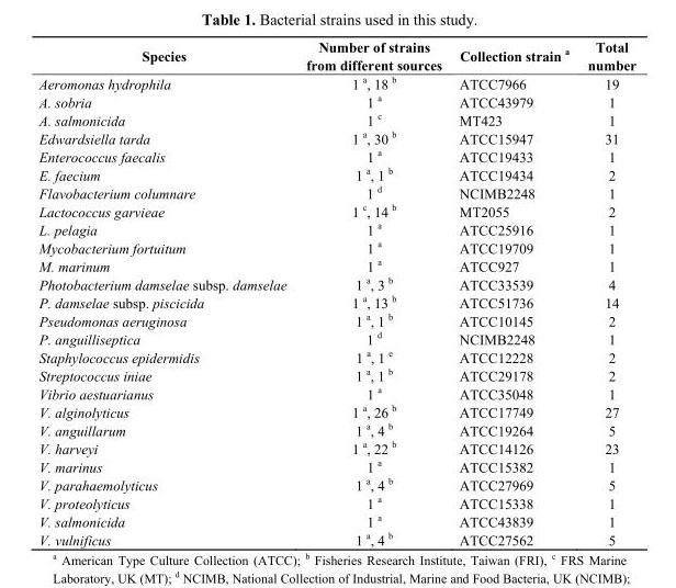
<table><thead><tr><td>Species</td><td>Number of strains from different sources</td><td>Collection strain <sup>a</sup></td><td>Total number</td></tr></thead><tbody><tr><td>Aeromonas hydrophila</td><td>1 <sup>a</sup>, 18 <sup>b</sup></td><td>ATCC7966</td><td>19</td></tr><tr><td>A. sobria</td><td>1 <sup>a</sup></td><td>ATCC43979</td><td>1</td></tr><tr><td>A. salmonicida</td><td>1 <sup>c</sup></td><td>MT423</td><td>1</td></tr><tr><td>Edwardsiella tarda</td><td>1 <sup>a</sup>, 30 <sup>b</sup></td><td>ATCC15947</td><td>31</td></tr><tr><td>Enterococcus faecalis</td><td>1 <sup>a</sup></td><td>ATCC19433</td><td>1</td></tr><tr><td>E. faecium</td><td>1 <sup>a</sup>, 1 <sup>b</sup></td><td>ATCC19434</td><td>2</td></tr><tr><td>Flavobacterium columnare</td><td>1 <sup>d</sup></td><td>NCIMB2248</td><td>1</td></tr><tr><td>Lactococcus garvieae</td><td>1 <sup>c</sup>, 14 <sup>b</sup></td><td>MT2055</td><td>2</td></tr><tr><td>L. pelagia</td><td>1 <sup>a</sup></td><td>ATCC25916</td><td>1</td></tr><tr><td>Mycobacterium fortuitum</td><td>1 <sup>a</sup></td><td>ATCC19709</td><td>1</td></tr><tr><td>M. marinum</td><td>1 <sup>a</sup></td><td>ATCC927</td><td>1</td></tr><tr><td>Photobacterium damselae subsp. damselae</td><td>1 <sup>a</sup>, 3 <sup>b</sup></td><td>ATCC33539</td><td>4</td></tr><tr><td>P. damselae subsp. piscicida</td><td>1 <sup>a</sup>, 13 <sup>b</sup></td><td>ATCC51736</td><td>14</td></tr><tr><td>Pseudomonas aeruginosa</td><td>1 <sup>a</sup>, 1 <sup>b</sup></td><td>ATCC10145</td><td>2</td></tr><tr><td>P. anguilliseptica</td><td>1 <sup>d</sup></td><td>NCIMB2248</td><td>1</td></tr><tr><td>Staphylococcus epidermidis</td><td>1 <sup>a</sup>, 1 <sup>e</sup></td><td>ATCC12228</td><td>2</td></tr><tr><td>Streptococcus iniae</td><td>1 <sup>a</sup>, 1 <sup>b</sup></td><td>ATCC29178</td><td>2</td></tr><tr><td>Vibrio aestuarianus</td><td>1 <sup>a</sup></td><td>ATCC35048</td><td>1</td></tr><tr><td>V. alginolyticus</td><td>1 <sup>a</sup>, 26 <sup>b</sup></td><td>ATCC17749</td><td>27</td></tr><tr><td>V. anguillarum</td><td>1 <sup>a</sup>, 4 <sup>b</sup></td><td>ATCC19264</td><td>5</td></tr><tr><td>V. harveyi</td><td>1 <sup>a</sup>, 22 <sup>b</sup></td><td>ATCC14126</td><td>23</td></tr><tr><td>V. marinus</td><td>1 <sup>a</sup></td><td>ATCC15382</td><td>1</td></tr><tr><td>V. parahaemolyticus</td><td>1 <sup>a</sup>, 4 <sup>b</sup></td><td>ATCC27969</td><td>5</td></tr><tr><td>V. proteolyticus</td><td>1 <sup>a</sup></td><td>ATCC15338</td><td>1</td></tr><tr><td>V. salmonicida</td><td>1 <sup>a</sup></td><td>ATCC43839</td><td>1</td></tr><tr><td>V. vulnificus</td><td>1 <sup>a</sup>, 4 <sup>b</sup></td><td>ATCC27562</td><td>5</td></tr></tbody></table>